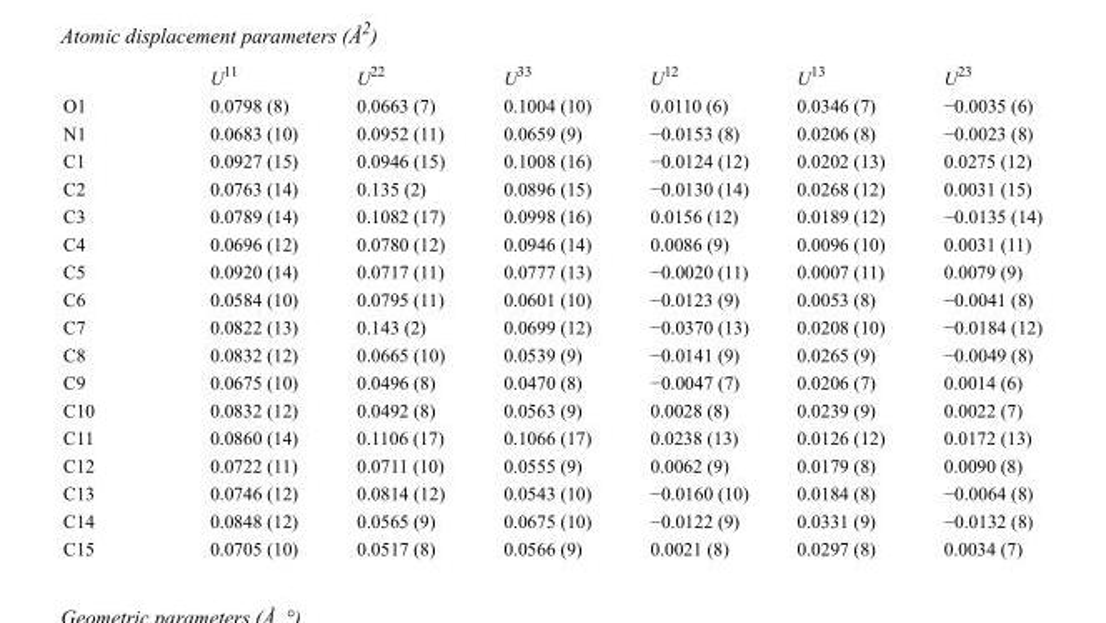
<table><thead><tr><td></td><td>U<sup>11</sup></td><td>U<sup>22</sup></td><td>U<sup>33</sup></td><td>U<sup>12</sup></td><td>U<sup>13</sup></td><td>U<sup>23</sup></td></tr></thead><tbody><tr><td>O1</td><td>0.0798 (8)</td><td>0.0663 (7)</td><td>0.1004 (10)</td><td>0.0110 (6)</td><td>0.0346 (7)</td><td>−0.0035 (6)</td></tr><tr><td>N1</td><td>0.0683 (10)</td><td>0.0952 (11)</td><td>0.0659 (9)</td><td>−0.0153 (8)</td><td>0.0206 (8)</td><td>−0.0023 (8)</td></tr><tr><td>C1</td><td>0.0927 (15)</td><td>0.0946 (15)</td><td>0.1008 (16)</td><td>−0.0124 (12)</td><td>0.0202 (13)</td><td>0.0275 (12)</td></tr><tr><td>C2</td><td>0.0763 (14)</td><td>0.135 (2)</td><td>0.0896 (15)</td><td>−0.0130 (14)</td><td>0.0268 (12)</td><td>0.0031 (15)</td></tr><tr><td>C3</td><td>0.0789 (14)</td><td>0.1082 (17)</td><td>0.0998 (16)</td><td>0.0156 (12)</td><td>0.0189 (12)</td><td>−0.0135 (14)</td></tr><tr><td>C4</td><td>0.0696 (12)</td><td>0.0780 (12)</td><td>0.0946 (14)</td><td>0.0086 (9)</td><td>0.0096 (10)</td><td>0.0031 (11)</td></tr><tr><td>C5</td><td>0.0920 (14)</td><td>0.0717 (11)</td><td>0.0777 (13)</td><td>−0.0020 (11)</td><td>0.0007 (11)</td><td>0.0079 (9)</td></tr><tr><td>C6</td><td>0.0584 (10)</td><td>0.0795 (11)</td><td>0.0601 (10)</td><td>−0.0123 (9)</td><td>0.0053 (8)</td><td>−0.0041 (8)</td></tr><tr><td>C7</td><td>0.0822 (13)</td><td>0.143 (2)</td><td>0.0699 (12)</td><td>−0.0370 (13)</td><td>0.0208 (10)</td><td>−0.0184 (12)</td></tr><tr><td>C8</td><td>0.0832 (12)</td><td>0.0665 (10)</td><td>0.0539 (9)</td><td>−0.0141 (9)</td><td>0.0265 (9)</td><td>−0.0049 (8)</td></tr><tr><td>C9</td><td>0.0675 (10)</td><td>0.0496 (8)</td><td>0.0470 (8)</td><td>−0.0047 (7)</td><td>0.0206 (7)</td><td>0.0014 (6)</td></tr><tr><td>C10</td><td>0.0832 (12)</td><td>0.0492 (8)</td><td>0.0563 (9)</td><td>0.0028 (8)</td><td>0.0239 (9)</td><td>0.0022 (7)</td></tr><tr><td>C11</td><td>0.0860 (14)</td><td>0.1106 (17)</td><td>0.1066 (17)</td><td>0.0238 (13)</td><td>0.0126 (12)</td><td>0.0172 (13)</td></tr><tr><td>C12</td><td>0.0722 (11)</td><td>0.0711 (10)</td><td>0.0555 (9)</td><td>0.0062 (9)</td><td>0.0179 (8)</td><td>0.0090 (8)</td></tr><tr><td>C13</td><td>0.0746 (12)</td><td>0.0814 (12)</td><td>0.0543 (10)</td><td>−0.0160 (10)</td><td>0.0184 (8)</td><td>−0.0064 (8)</td></tr><tr><td>C14</td><td>0.0848 (12)</td><td>0.0565 (9)</td><td>0.0675 (10)</td><td>−0.0122 (9)</td><td>0.0331 (9)</td><td>−0.0132 (8)</td></tr><tr><td>C15</td><td>0.0705 (10)</td><td>0.0517 (8)</td><td>0.0566 (9)</td><td>0.0021 (8)</td><td>0.0297 (8)</td><td>0.0034 (7)</td></tr></tbody></table>